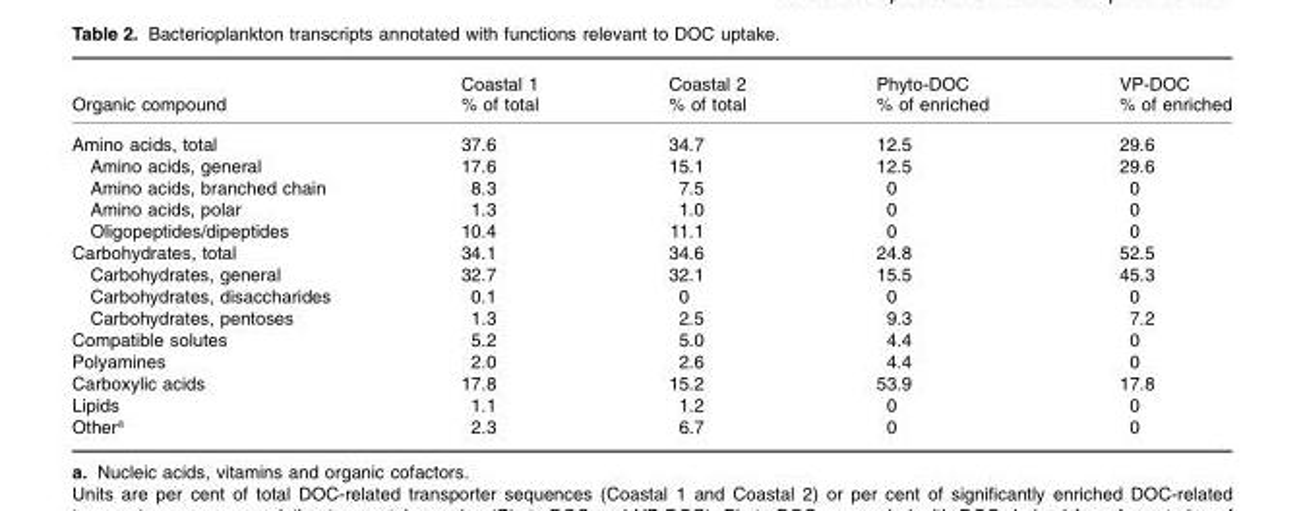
<table><thead><tr><td>Organic compound</td><td>Coastal 1 % of total</td><td>Coastal 2 % of total</td><td>Phyto-DOC % of enriched</td><td>VP-DOC % of enriched</td></tr></thead><tbody><tr><td>Amino acids, total</td><td>37.6</td><td>34.7</td><td>12.5</td><td>29.6</td></tr><tr><td>Amino acids, general</td><td>17.6</td><td>15.1</td><td>12.5</td><td>29.6</td></tr><tr><td>Amino acids, branched chain</td><td>8.3</td><td>7.5</td><td>0</td><td>0</td></tr><tr><td>Amino acids, polar</td><td>1.3</td><td>1.0</td><td>0</td><td>0</td></tr><tr><td>Oligopeptides/dipeptides</td><td>10.4</td><td>11.1</td><td>0</td><td>0</td></tr><tr><td>Carbohydrates, total</td><td>34.1</td><td>34.6</td><td>24.8</td><td>52.5</td></tr><tr><td>Carbohydrates, general</td><td>32.7</td><td>32.1</td><td>15.5</td><td>45.3</td></tr><tr><td>Carbohydrates, disaccharides</td><td>0.1</td><td>0</td><td>0</td><td>0</td></tr><tr><td>Carbohydrates, pentoses</td><td>1.3</td><td>2.5</td><td>9.3</td><td>7.2</td></tr><tr><td>Compatible solutes</td><td>5.2</td><td>5.0</td><td>4.4</td><td>0</td></tr><tr><td>Polyamines</td><td>2.0</td><td>2.6</td><td>4.4</td><td>0</td></tr><tr><td>Carboxylic acids</td><td>17.8</td><td>15.2</td><td>53.9</td><td>17.8</td></tr><tr><td>Lipids</td><td>1.1</td><td>1.2</td><td>0</td><td>0</td></tr><tr><td>Other<sup>a</sup></td><td>2.3</td><td>6.7</td><td>0</td><td>0</td></tr></tbody></table>